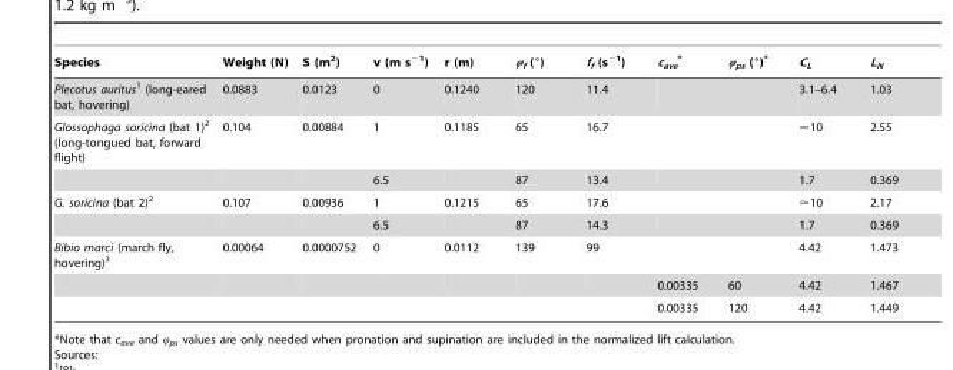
<table><thead><tr><td>Species</td><td>Weight (N)</td><td>S (m<sup>2</sup>)</td><td>v (m s<sup>−1</sup>)</td><td>r (m)</td><td>ϕ<sub>f</sub> (°)</td><td>f<sub>f</sub> (s<sup>−1</sup>)</td><td>c<sub>ave</sub> *</td><td>ϕ<sub>ps</sub> (°)*</td><td>C<sub>L</sub></td><td>L<sub>N</sub></td></tr></thead><tbody><tr><td>Plecotus auritus1 (long-eared bat, hovering)</td><td>0.0883</td><td>0.0123</td><td>0</td><td>0.1240</td><td>120</td><td>11.4</td><td></td><td></td><td>3.1–6.4</td><td>1.03</td></tr><tr><td rowspan="2">Glossophaga soricina (bat 1)<sup>2</sup> (long-tongued bat, forward flight)</td><td>0.104</td><td>0.00884</td><td>1</td><td>0.1185</td><td>65</td><td>16.7</td><td></td><td></td><td>&lt;10</td><td>2.55</td></tr><tr><td></td><td></td><td>6.5</td><td></td><td>87</td><td>13.4</td><td></td><td></td><td>1.7</td><td>0.369</td></tr><tr><td rowspan="2">G. soricina (bat 2)<sup>2</sup></td><td>0.107</td><td>0.00936</td><td>1</td><td>0.1215</td><td>65</td><td>17.6</td><td></td><td></td><td>&lt;10</td><td>2.17</td></tr><tr><td></td><td></td><td>6.5</td><td></td><td>87</td><td>14.3</td><td></td><td></td><td>1.7</td><td>0.369</td></tr><tr><td rowspan="3">Bibio marci (march fly, hovering)<sup>3</sup></td><td>0.00064</td><td>0.0000752</td><td>0</td><td>0.0112</td><td>139</td><td>99</td><td></td><td></td><td>4.42</td><td>1.473</td></tr><tr><td></td><td></td><td></td><td></td><td></td><td></td><td>0.00335</td><td>60</td><td>4.42</td><td>1.467</td></tr><tr><td></td><td></td><td></td><td></td><td></td><td></td><td>0.00335</td><td>120</td><td>4.42</td><td>1.449</td></tr></tbody></table>